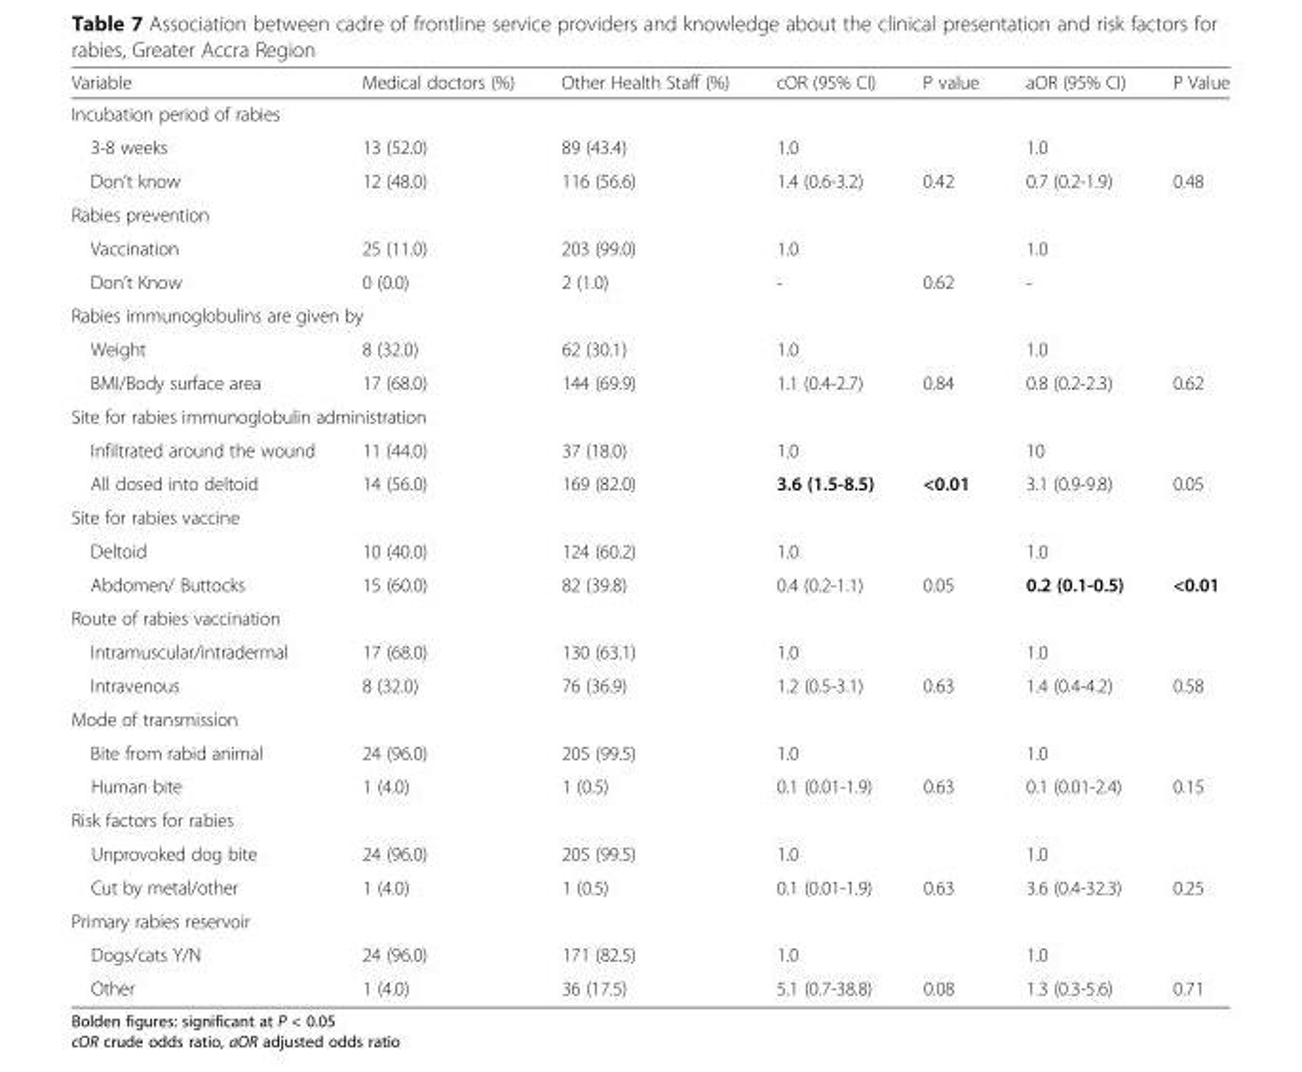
<table><thead><tr><td>Variable</td><td>Medical doctors (%)</td><td>Other Health Staff (%)</td><td>cOR (95% CI)</td><td>P value</td><td>aOR (95% CI)</td><td>P Value</td></tr></thead><tbody><tr><td colspan="7">Incubation period of rabies</td></tr><tr><td>3-8 weeks</td><td>13 (52.0)</td><td>89 (43.4)</td><td>1.0</td><td></td><td>1.0</td><td></td></tr><tr><td>Don’t know</td><td>12 (48.0)</td><td>116 (56.6)</td><td>1.4 (0.6-3.2)</td><td>0.42</td><td>0.7 (0.2-1.9)</td><td>0.48</td></tr><tr><td colspan="7">Rabies prevention</td></tr><tr><td>Vaccination</td><td>25 (11.0)</td><td>203 (99.0)</td><td>1.0</td><td></td><td>1.0</td><td></td></tr><tr><td>Don’t Know</td><td>0 (0.0)</td><td>2 (1.0)</td><td>-</td><td>0.62</td><td>-</td><td></td></tr><tr><td colspan="7">Rabies immunoglobulins are given by</td></tr><tr><td>Weight</td><td>8 (32.0)</td><td>62 (30.1)</td><td>1.0</td><td></td><td>1.0</td><td></td></tr><tr><td>BMI/Body surface area</td><td>17 (68.0)</td><td>144 (69.9)</td><td>1.1 (0.4-2.7)</td><td>0.84</td><td>0.8 (0.2-2.3)</td><td>0.62</td></tr><tr><td colspan="7">Site for rabies immunoglobulin administration</td></tr><tr><td>Infiltrated around the wound</td><td>11 (44.0)</td><td>37 (18.0)</td><td>1.0</td><td></td><td>10</td><td></td></tr><tr><td>All dosed into deltoid</td><td>14 (56.0)</td><td>169 (82.0)</td><td>3.6 (1.5-8.5)</td><td>&lt;0.01</td><td>3.1 (0.9-9.8)</td><td>0.05</td></tr><tr><td colspan="7">Site for rabies vaccine</td></tr><tr><td>Deltoid</td><td>10 (40.0)</td><td>124 (60.2)</td><td>1.0</td><td></td><td>1.0</td><td></td></tr><tr><td>Abdomen/ Buttocks</td><td>15 (60.0)</td><td>82 (39.8)</td><td>0.4 (0.2-1.1)</td><td>0.05</td><td>0.2 (0.1-0.5)</td><td>&lt;0.01</td></tr><tr><td colspan="7">Route of rabies vaccination</td></tr><tr><td>Intramuscular/intradermal</td><td>17 (68.0)</td><td>130 (63.1)</td><td>1.0</td><td></td><td>1.0</td><td></td></tr><tr><td>Intravenous</td><td>8 (32.0)</td><td>76 (36.9)</td><td>1.2 (0.5-3.1)</td><td>0.63</td><td>1.4 (0.4-4.2)</td><td>0.58</td></tr><tr><td colspan="7">Mode of transmission</td></tr><tr><td>Bite from rabid animal</td><td>24 (96.0)</td><td>205 (99.5)</td><td>1.0</td><td></td><td>1.0</td><td></td></tr><tr><td>Human bite</td><td>1 (4.0)</td><td>1 (0.5)</td><td>0.1 (0.01-1.9)</td><td>0.63</td><td>0.1 (0.01-2.4)</td><td>0.15</td></tr><tr><td colspan="7">Risk factors for rabies</td></tr><tr><td>Unprovoked dog bite</td><td>24 (96.0)</td><td>205 (99.5)</td><td>1.0</td><td></td><td>1.0</td><td></td></tr><tr><td>Cut by metal/other</td><td>1 (4.0)</td><td>1 (0.5)</td><td>0.1 (0.01-1.9)</td><td>0.63</td><td>3.6 (0.4-32.3)</td><td>0.25</td></tr><tr><td colspan="7">Primary rabies reservoir</td></tr><tr><td>Dogs/cats Y/N</td><td>24 (96.0)</td><td>171 (82.5)</td><td>1.0</td><td></td><td>1.0</td><td></td></tr><tr><td>Other</td><td>1 (4.0)</td><td>36 (17.5)</td><td>5.1 (0.7-38.8)</td><td>0.08</td><td>1.3 (0.3-5.6)</td><td>0.71</td></tr></tbody></table>